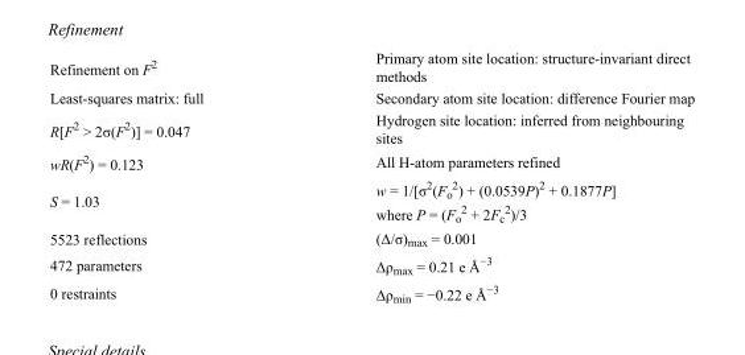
<table><tbody><tr><td>Refinement on F<sup>2</sup></td><td>Primary atom site location: structure-invariant direct methods</td></tr><tr><td>Least-squares matrix: full</td><td>Secondary atom site location: difference Fourier map</td></tr><tr><td>R[F<sup>2</sup> &gt; 2σ(F<sup>2</sup>)] = 0.047</td><td>Hydrogen site location: inferred from neighbouring sites</td></tr><tr><td>wR(F<sup>2</sup>) = 0.123</td><td>All H-atom parameters refined</td></tr><tr><td>S = 1.03</td><td>w = 1/[σ<sup>2</sup>(F<sub>o</sub> <sup>2</sup>) + (0.0539P)<sup>2</sup> + 0.1877P] where P = (F<sub>o</sub> <sup>2</sup> + 2F<sub>c</sub> <sup>2</sup>)/3</td></tr><tr><td>5523 reflections</td><td>(Δ/σ)<sub>max</sub> = 0.001</td></tr><tr><td>472 parameters</td><td>Δρ<sub>max</sub> = 0.21 e Å<sup>−3</sup></td></tr><tr><td>0 restraints</td><td>Δρmin = −0.22 e Å−3</td></tr></tbody></table>